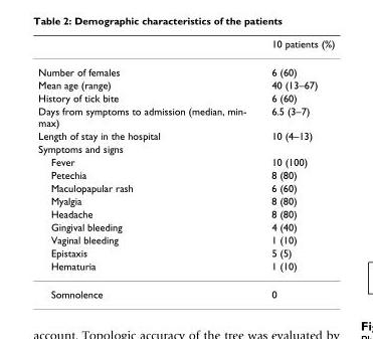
<table><thead><tr><td></td><td>10 patients (%)</td></tr></thead><tbody><tr><td>Number of females</td><td>6 (60)</td></tr><tr><td>Mean age (range)</td><td>40 (13–67)</td></tr><tr><td>History of tick bite</td><td>6 (60)</td></tr><tr><td>Days from symptoms to admission (median, min- max)</td><td>6.5 (3–7)</td></tr><tr><td>Length of stay in the hospital</td><td>10 (4–13)</td></tr><tr><td colspan="2">Symptoms and signs</td></tr><tr><td>Fever</td><td>10 (100)</td></tr><tr><td>Petechia</td><td>8 (80)</td></tr><tr><td>Maculopapular rash</td><td>6 (60)</td></tr><tr><td>Myalgia</td><td>8 (80)</td></tr><tr><td>Headache</td><td>8 (80)</td></tr><tr><td>Gingival bleeding</td><td>4 (40)</td></tr><tr><td>Vaginal bleeding</td><td>1 (10)</td></tr><tr><td>Epistaxis</td><td>5 (5)</td></tr><tr><td>Hematuria</td><td>1 (10)</td></tr><tr><td>Somnolence</td><td>0</td></tr></tbody></table>